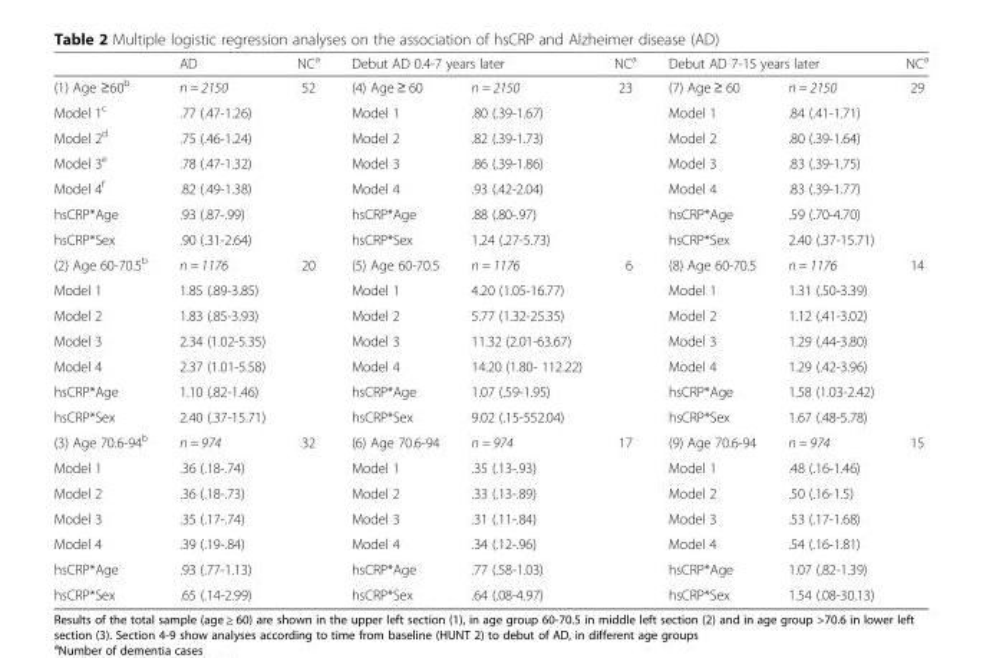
<table><thead><tr><td rowspan="2">(1) Age ≥60<sup>b</sup></td><td rowspan="2">AD n = 2150</td><td rowspan="2">NC<sup>a</sup> 52</td><td colspan="2">Debut AD 0.4-7 years later</td><td rowspan="2">NC<sup>a</sup> 23</td><td colspan="2">Debut AD 7-15 years later</td><td rowspan="2">NC<sup>a</sup> 29</td></tr><tr><td>(4) Age ≥ 60</td><td>n = 2150</td><td>(7) Age ≥ 60</td><td>n = 2150</td></tr></thead><tbody><tr><td>Model 1<sup>c</sup></td><td>.77 (.47-1.26)</td><td></td><td>Model 1</td><td>.80 (.39-1.67)</td><td></td><td>Model 1</td><td>.84 (.41-1.71)</td><td></td></tr><tr><td>Model 2<sup>d</sup></td><td>.75 (.46-1.24)</td><td></td><td>Model 2</td><td>.82 (.39-1.73)</td><td></td><td>Model 2</td><td>.80 (.39-1.64)</td><td></td></tr><tr><td>Model 3<sup>e</sup></td><td>.78 (.47-1.32)</td><td></td><td>Model 3</td><td>.86 (.39-1.86)</td><td></td><td>Model 3</td><td>.83 (.39-1.75)</td><td></td></tr><tr><td>Model 4<sup>f</sup></td><td>.82 (.49-1.38)</td><td></td><td>Model 4</td><td>.93 (.42-2.04)</td><td></td><td>Model 4</td><td>.83 (.39-1.77)</td><td></td></tr><tr><td>hsCRP*Age</td><td>.93 (.87-.99)</td><td></td><td>hsCRP*Age</td><td>.88 (.80-.97)</td><td></td><td>hsCRP*Age</td><td>.59 (.70-4.70)</td><td></td></tr><tr><td>hsCRP*Sex</td><td>.90 (.31-2.64)</td><td></td><td>hsCRP*Sex</td><td>1.24 (.27-5.73)</td><td></td><td>hsCRP*Sex</td><td>2.40 (.37-15.71)</td><td></td></tr><tr><td>(2) Age 60-70.5<sup>b</sup></td><td>n = 1176</td><td>20</td><td>(5) Age 60-70.5</td><td>n = 1176</td><td>6</td><td>(8) Age 60-70.5</td><td>n = 1176</td><td>14</td></tr><tr><td>Model 1</td><td>1.85 (.89-3.85)</td><td></td><td>Model 1</td><td>4.20 (1.05-16.77)</td><td></td><td>Model 1</td><td>1.31 (.50-3.39)</td><td></td></tr><tr><td>Model 2</td><td>1.83 (.85-3.93)</td><td></td><td>Model 2</td><td>5.77 (1.32-25.35)</td><td></td><td>Model 2</td><td>1.12 (.41-3.02)</td><td></td></tr><tr><td>Model 3</td><td>2.34 (1.02-5.35)</td><td></td><td>Model 3</td><td>11.32 (2.01-63.67)</td><td></td><td>Model 3</td><td>1.29 (.44-3.80)</td><td></td></tr><tr><td>Model 4</td><td>2.37 (1.01-5.58)</td><td></td><td>Model 4</td><td>14.20 (1.80- 112.22)</td><td></td><td>Model 4</td><td>1.29 (.42-3.96)</td><td></td></tr><tr><td>hsCRP*Age</td><td>1.10 (.82-1.46)</td><td></td><td>hsCRP*Age</td><td>1.07 (.59-1.95)</td><td></td><td>hsCRP*Age</td><td>1.58 (1.03-2.42)</td><td></td></tr><tr><td>hsCRP*Sex</td><td>2.40 (.37-15.71)</td><td></td><td>hsCRP*Sex</td><td>9.02 (.15-552.04)</td><td></td><td>hsCRP*Sex</td><td>1.67 (.48-5.78)</td><td></td></tr><tr><td>(3) Age 70.6-94<sup>b</sup></td><td>n = 974</td><td>32</td><td>(6) Age 70.6-94</td><td>n = 974</td><td>17</td><td>(9) Age 70.6-94</td><td>n = 974</td><td>15</td></tr><tr><td>Model 1</td><td>.36 (.18-.74)</td><td></td><td>Model 1</td><td>.35 (.13-.93)</td><td></td><td>Model 1</td><td>.48 (.16-1.46)</td><td></td></tr><tr><td>Model 2</td><td>.36 (.18-.73)</td><td></td><td>Model 2</td><td>.33 (.13-.89)</td><td></td><td>Model 2</td><td>.50 (.16-1.5)</td><td></td></tr><tr><td>Model 3</td><td>.35 (.17-.74)</td><td></td><td>Model 3</td><td>.31 (.11-.84)</td><td></td><td>Model 3</td><td>.53 (.17-1.68)</td><td></td></tr><tr><td>Model 4</td><td>.39 (.19-.84)</td><td></td><td>Model 4</td><td>.34 (.12-.96)</td><td></td><td>Model 4</td><td>.54 (.16-1.81)</td><td></td></tr><tr><td>hsCRP*Age</td><td>.93 (.77-1.13)</td><td></td><td>hsCRP*Age</td><td>.77 (.58-1.03)</td><td></td><td>hsCRP*Age</td><td>1.07 (.82-1.39)</td><td></td></tr><tr><td>hsCRP*Sex</td><td>.65 (.14-2.99)</td><td></td><td>hsCRP*Sex</td><td>.64 (.08-4.97)</td><td></td><td>hsCRP*Sex</td><td>1.54 (.08-30.13)</td><td></td></tr></tbody></table>